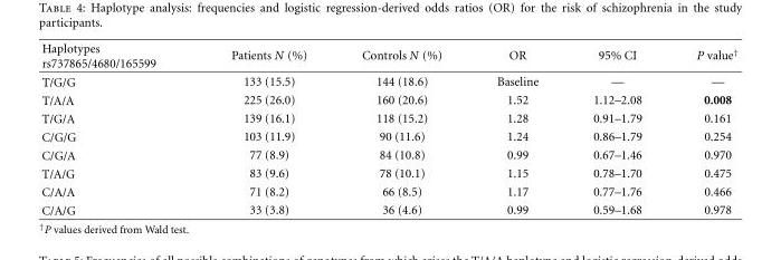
<table><thead><tr><td>Haplotypes rs737865/4680/165599</td><td>Patients N (%)</td><td>Controls N (%)</td><td>OR</td><td>95% CI</td><td>P value<sup>†</sup></td></tr></thead><tbody><tr><td>T/G/G</td><td>133 (15.5)</td><td>144 (18.6)</td><td>Baseline</td><td>—</td><td>—</td></tr><tr><td>T/A/A</td><td>225 (26.0)</td><td>160 (20.6)</td><td>1.52</td><td>1.12–2.08</td><td>0.008</td></tr><tr><td>T/G/A</td><td>139 (16.1)</td><td>118 (15.2)</td><td>1.28</td><td>0.91–1.79</td><td>0.161</td></tr><tr><td>C/G/G</td><td>103 (11.9)</td><td>90 (11.6)</td><td>1.24</td><td>0.86–1.79</td><td>0.254</td></tr><tr><td>C/G/A</td><td>77 (8.9)</td><td>84 (10.8)</td><td>0.99</td><td>0.67–1.46</td><td>0.970</td></tr><tr><td>T/A/G</td><td>83 (9.6)</td><td>78 (10.1)</td><td>1.15</td><td>0.78–1.70</td><td>0.475</td></tr><tr><td>C/A/A</td><td>71 (8.2)</td><td>66 (8.5)</td><td>1.17</td><td>0.77–1.76</td><td>0.466</td></tr><tr><td>C/A/G</td><td>33 (3.8)</td><td>36 (4.6)</td><td>0.99</td><td>0.59–1.68</td><td>0.978</td></tr></tbody></table>